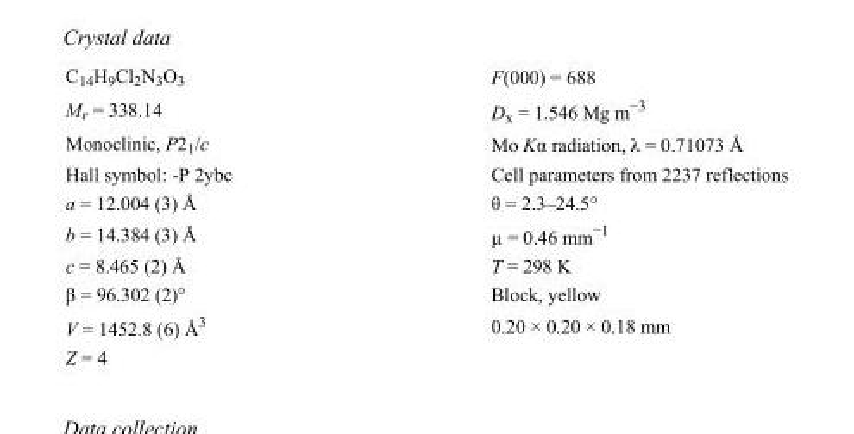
<table><tbody><tr><td>C<sub>14</sub>H<sub>9</sub>Cl<sub>2</sub>N<sub>3</sub>O<sub>3</sub></td><td>F(000) = 688</td></tr><tr><td>M<sub>r</sub> = 338.14</td><td>D<sub>x</sub> = 1.546 Mg m<sup>−3</sup></td></tr><tr><td>Monoclinic, P2<sub>1</sub>/c</td><td>Mo Kα radiation, λ = 0.71073 Å</td></tr><tr><td>Hall symbol: -P 2ybc</td><td>Cell parameters from 2237 reflections</td></tr><tr><td>a = 12.004 (3) Å</td><td>θ = 2.3–24.5°</td></tr><tr><td>b = 14.384 (3) Å</td><td>µ = 0.46 mm<sup>−1</sup></td></tr><tr><td>c = 8.465 (2) Å</td><td>T = 298 K</td></tr><tr><td>β = 96.302 (2)°</td><td>Block, yellow</td></tr><tr><td>V = 1452.8 (6) Å<sup>3</sup></td><td>0.20 × 0.20 × 0.18 mm</td></tr><tr><td>Z = 4</td><td></td></tr></tbody></table>